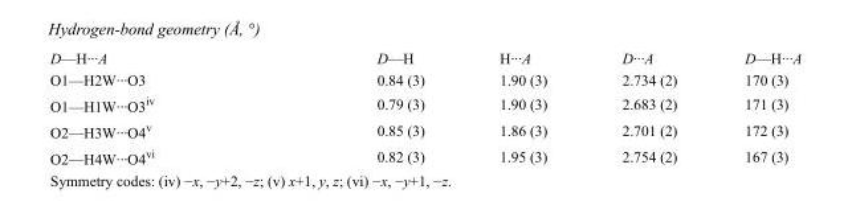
<table><tbody><tr><td>D—H···A</td><td>D—H</td><td>H···A</td><td>D···A</td><td>D—H···A</td></tr><tr><td>O1—H2W···O3</td><td>0.84 (3)</td><td>1.90 (3)</td><td>2.734 (2)</td><td>170 (3)</td></tr><tr><td>O1—H1W···O3<sup>iv</sup></td><td>0.79 (3)</td><td>1.90 (3)</td><td>2.683 (2)</td><td>171 (3)</td></tr><tr><td>O2—H3W···O4<sup>v</sup></td><td>0.85 (3)</td><td>1.86 (3)</td><td>2.701 (2)</td><td>172 (3)</td></tr><tr><td>O2—H4W···O4<sup>vi</sup></td><td>0.82 (3)</td><td>1.95 (3)</td><td>2.754 (2)</td><td>167 (3)</td></tr></tbody></table>